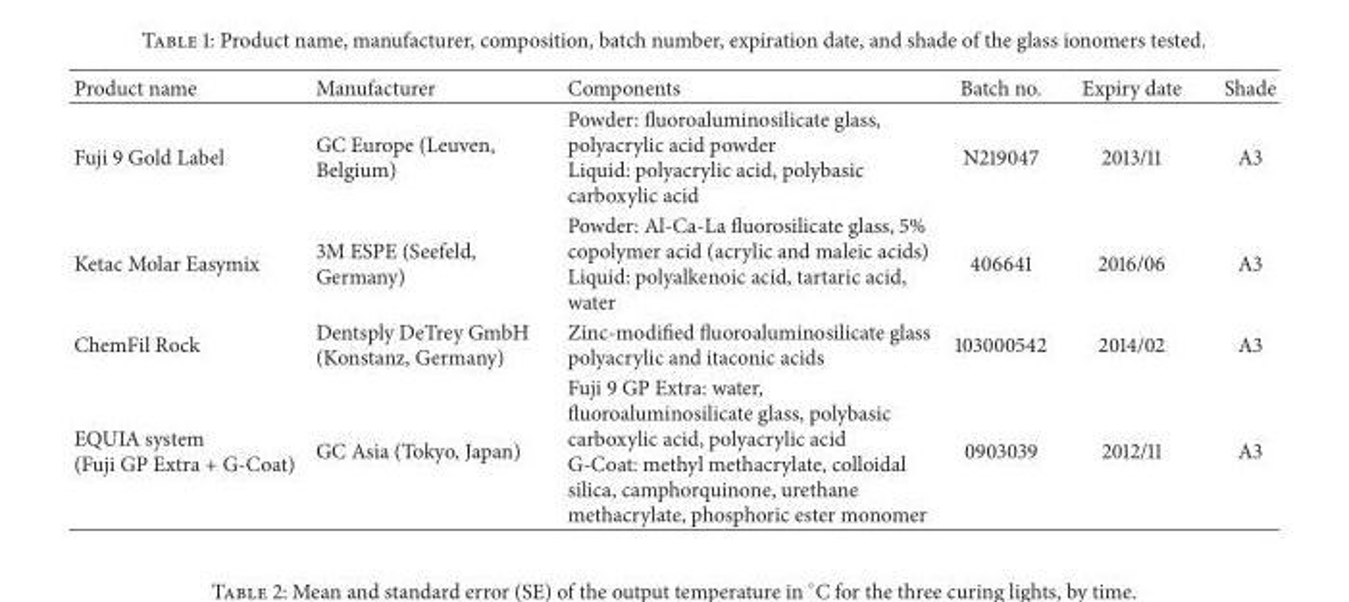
<table><thead><tr><td>Product name</td><td>Manufacturer</td><td>Components</td><td>Batch no.</td><td>Expiry date</td><td>Shade</td></tr></thead><tbody><tr><td>Fuji 9 Gold Label</td><td>GC Europe (Leuven, Belgium)</td><td>Powder: fluoroaluminosilicate glass, polyacrylic acid powder Liquid: polyacrylic acid, polybasic carboxylic acid</td><td>N219047</td><td>2013/11</td><td>A3</td></tr><tr><td>Ketac Molar Easymix</td><td>3M ESPE (Seefeld, Germany)</td><td>Powder: Al-Ca-La fluorosilicate glass, 5% copolymer acid (acrylic and maleic acids) Liquid: polyalkenoic acid, tartaric acid, water</td><td>406641</td><td>2016/06</td><td>A3</td></tr><tr><td>ChemFil Rock</td><td>Dentsply DeTrey GmbH (Konstanz, Germany)</td><td>Zinc-modified fluoroaluminosilicate glass polyacrylic and itaconic acids</td><td>103000542</td><td>2014/02</td><td>A3</td></tr><tr><td>EQUIA system (Fuji GP Extra + G-Coat)</td><td>GC Asia (Tokyo, Japan)</td><td>Fuji 9 GP Extra: water, fluoroaluminosilicate glass, polybasic carboxylic acid, polyacrylic acid G-Coat: methyl methacrylate, colloidal silica, camphorquinone, urethane methacrylate, phosphoric ester monomer</td><td>0903039</td><td>2012/11</td><td>A3</td></tr></tbody></table>